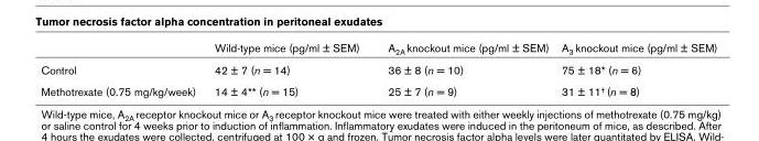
<table><thead><tr><td></td><td>Wild-type mice (pg/ml ± SEM)</td><td>A2A knockout mice (pg/ml ± SEM)</td><td>A3 knockout mice (pg/ml ± SEM)</td></tr></thead><tbody><tr><td>Control</td><td>42 ± 7 (n = 14)</td><td>36 ± 8 (n = 10)</td><td>75 ± 18* (n = 6)</td></tr><tr><td>Methotrexate (0.75 mg/kg/week)</td><td>14 ± 4** (n = 15)</td><td>25 ± 7 (n = 9)</td><td>31 ± 11† (n = 8)</td></tr></tbody></table>